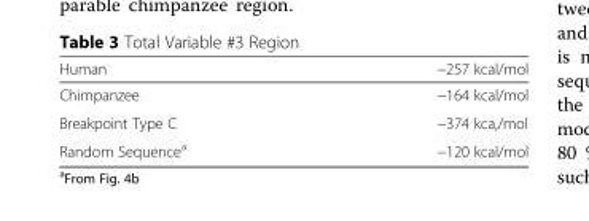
<table><thead><tr><td>Human</td><td>−257 kcal/mol</td></tr></thead><tbody><tr><td>Chimpanzee</td><td>−164 kcal/mol</td></tr><tr><td>Breakpoint Type C</td><td>−374 kca,/mol</td></tr><tr><td>Random Sequence<sup>a</sup></td><td>−120 kcal/mol</td></tr></tbody></table>